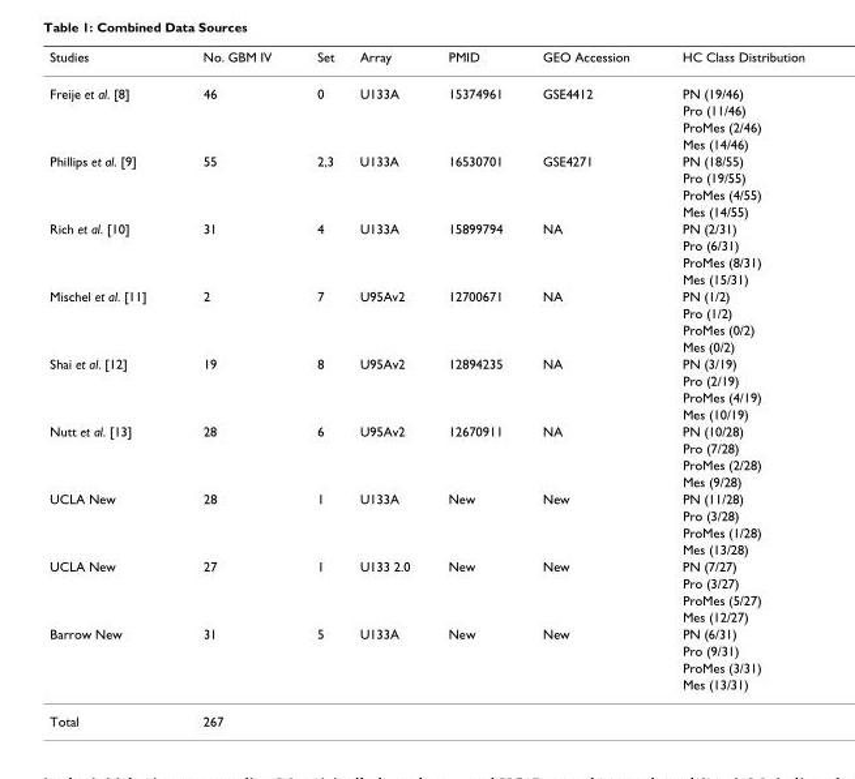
<table><thead><tr><td>Studies</td><td>No. GBM IV</td><td>Set</td><td>Array</td><td>PMID</td><td>GEO Accession</td><td>HC Class Distribution</td></tr></thead><tbody><tr><td rowspan="4">Freije et al. [8]</td><td>46</td><td>0</td><td>U133A</td><td>15374961</td><td>GSE4412</td><td>PN (19/46)</td></tr><tr><td></td><td></td><td></td><td></td><td></td><td>Pro (11/46)</td></tr><tr><td></td><td></td><td></td><td></td><td></td><td>ProMes (2/46)</td></tr><tr><td></td><td></td><td></td><td></td><td></td><td>Mes (14/46)</td></tr><tr><td rowspan="4">Phillips et al. [9]</td><td>55</td><td>2,3</td><td>U133A</td><td>16530701</td><td>GSE4271</td><td>PN (18/55)</td></tr><tr><td></td><td></td><td></td><td></td><td></td><td>Pro (19/55)</td></tr><tr><td></td><td></td><td></td><td></td><td></td><td>ProMes (4/55)</td></tr><tr><td></td><td></td><td></td><td></td><td></td><td>Mes (14/55)</td></tr><tr><td rowspan="4">Rich et al. [10]</td><td>31</td><td>4</td><td>U133A</td><td>15899794</td><td>NA</td><td>PN (2/31)</td></tr><tr><td></td><td></td><td></td><td></td><td></td><td>Pro (6/31)</td></tr><tr><td></td><td></td><td></td><td></td><td></td><td>ProMes (8/31)</td></tr><tr><td></td><td></td><td></td><td></td><td></td><td>Mes (15/31)</td></tr><tr><td rowspan="4">Mischel et al. [11]</td><td>2</td><td>7</td><td>U95Av2</td><td>12700671</td><td>NA</td><td>PN (1/2)</td></tr><tr><td></td><td></td><td></td><td></td><td></td><td>Pro (1/2)</td></tr><tr><td></td><td></td><td></td><td></td><td></td><td>ProMes (0/2)</td></tr><tr><td></td><td></td><td></td><td></td><td></td><td>Mes (0/2)</td></tr><tr><td rowspan="4">Shai et al. [12]</td><td>19</td><td>8</td><td>U95Av2</td><td>12894235</td><td>NA</td><td>PN (3/19)</td></tr><tr><td></td><td></td><td></td><td></td><td></td><td>Pro (2/19)</td></tr><tr><td></td><td></td><td></td><td></td><td></td><td>ProMes (4/19)</td></tr><tr><td></td><td></td><td></td><td></td><td></td><td>Mes (10/19)</td></tr><tr><td rowspan="4">Nutt et al. [13]</td><td>28</td><td>6</td><td>U95Av2</td><td>12670911</td><td>NA</td><td>PN (10/28)</td></tr><tr><td></td><td></td><td></td><td></td><td></td><td>Pro (7/28)</td></tr><tr><td></td><td></td><td></td><td></td><td></td><td>ProMes (2/28)</td></tr><tr><td></td><td></td><td></td><td></td><td></td><td>Mes (9/28)</td></tr><tr><td rowspan="4">UCLA New</td><td>28</td><td>1</td><td>U133A</td><td>New</td><td>New</td><td>PN (11/28)</td></tr><tr><td></td><td></td><td></td><td></td><td></td><td>Pro (3/28)</td></tr><tr><td></td><td></td><td></td><td></td><td></td><td>ProMes (1/28)</td></tr><tr><td></td><td></td><td></td><td></td><td></td><td>Mes (13/28)</td></tr><tr><td rowspan="4">UCLA New</td><td>27</td><td>1</td><td>U133 2.0</td><td>New</td><td>New</td><td>PN (7/27)</td></tr><tr><td></td><td></td><td></td><td></td><td></td><td>Pro (3/27)</td></tr><tr><td></td><td></td><td></td><td></td><td></td><td>ProMes (5/27)</td></tr><tr><td></td><td></td><td></td><td></td><td></td><td>Mes (12/27)</td></tr><tr><td rowspan="4">Barrow New</td><td>31</td><td>5</td><td>U133A</td><td>New</td><td>New</td><td>PN (6/31)</td></tr><tr><td></td><td></td><td></td><td></td><td></td><td>Pro (9/31)</td></tr><tr><td></td><td></td><td></td><td></td><td></td><td>ProMes (3/31)</td></tr><tr><td></td><td></td><td></td><td></td><td></td><td>Mes (13/31)</td></tr><tr><td>Total</td><td>267</td><td></td><td></td><td></td><td></td><td></td></tr></tbody></table>